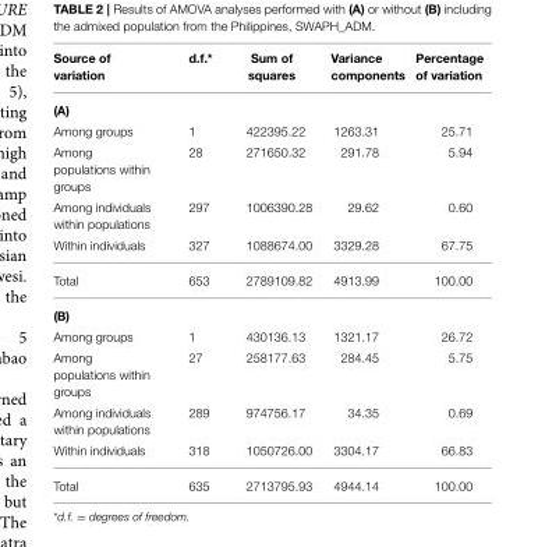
<table><thead><tr><td>Source of variation</td><td>d.f.*</td><td>Sum of squares</td><td>Variance components</td><td>Percentage of variation</td></tr></thead><tbody><tr><td colspan="5">(A)</td></tr><tr><td>Among groups</td><td>1</td><td>422395.22</td><td>1263.31</td><td>25.71</td></tr><tr><td>Among populations within groups</td><td>28</td><td>271650.32</td><td>291.78</td><td>5.94</td></tr><tr><td>Among individuals within populations</td><td>297</td><td>1006390.28</td><td>29.62</td><td>0.60</td></tr><tr><td>Within individuals</td><td>327</td><td>1088674.00</td><td>3329.28</td><td>67.75</td></tr><tr><td>Total</td><td>653</td><td>2789109.82</td><td>4913.99</td><td>100.00</td></tr><tr><td colspan="5">(B)</td></tr><tr><td>Among groups</td><td>1</td><td>430136.13</td><td>1321.17</td><td>26.72</td></tr><tr><td>Among populations within groups</td><td>27</td><td>258177.63</td><td>284.45</td><td>5.75</td></tr><tr><td>Among individuals within populations</td><td>289</td><td>974756.17</td><td>34.35</td><td>0.69</td></tr><tr><td>Within individuals</td><td>318</td><td>1050726.00</td><td>3304.17</td><td>66.83</td></tr><tr><td>Total</td><td>635</td><td>2713795.93</td><td>4944.14</td><td>100.00</td></tr></tbody></table>